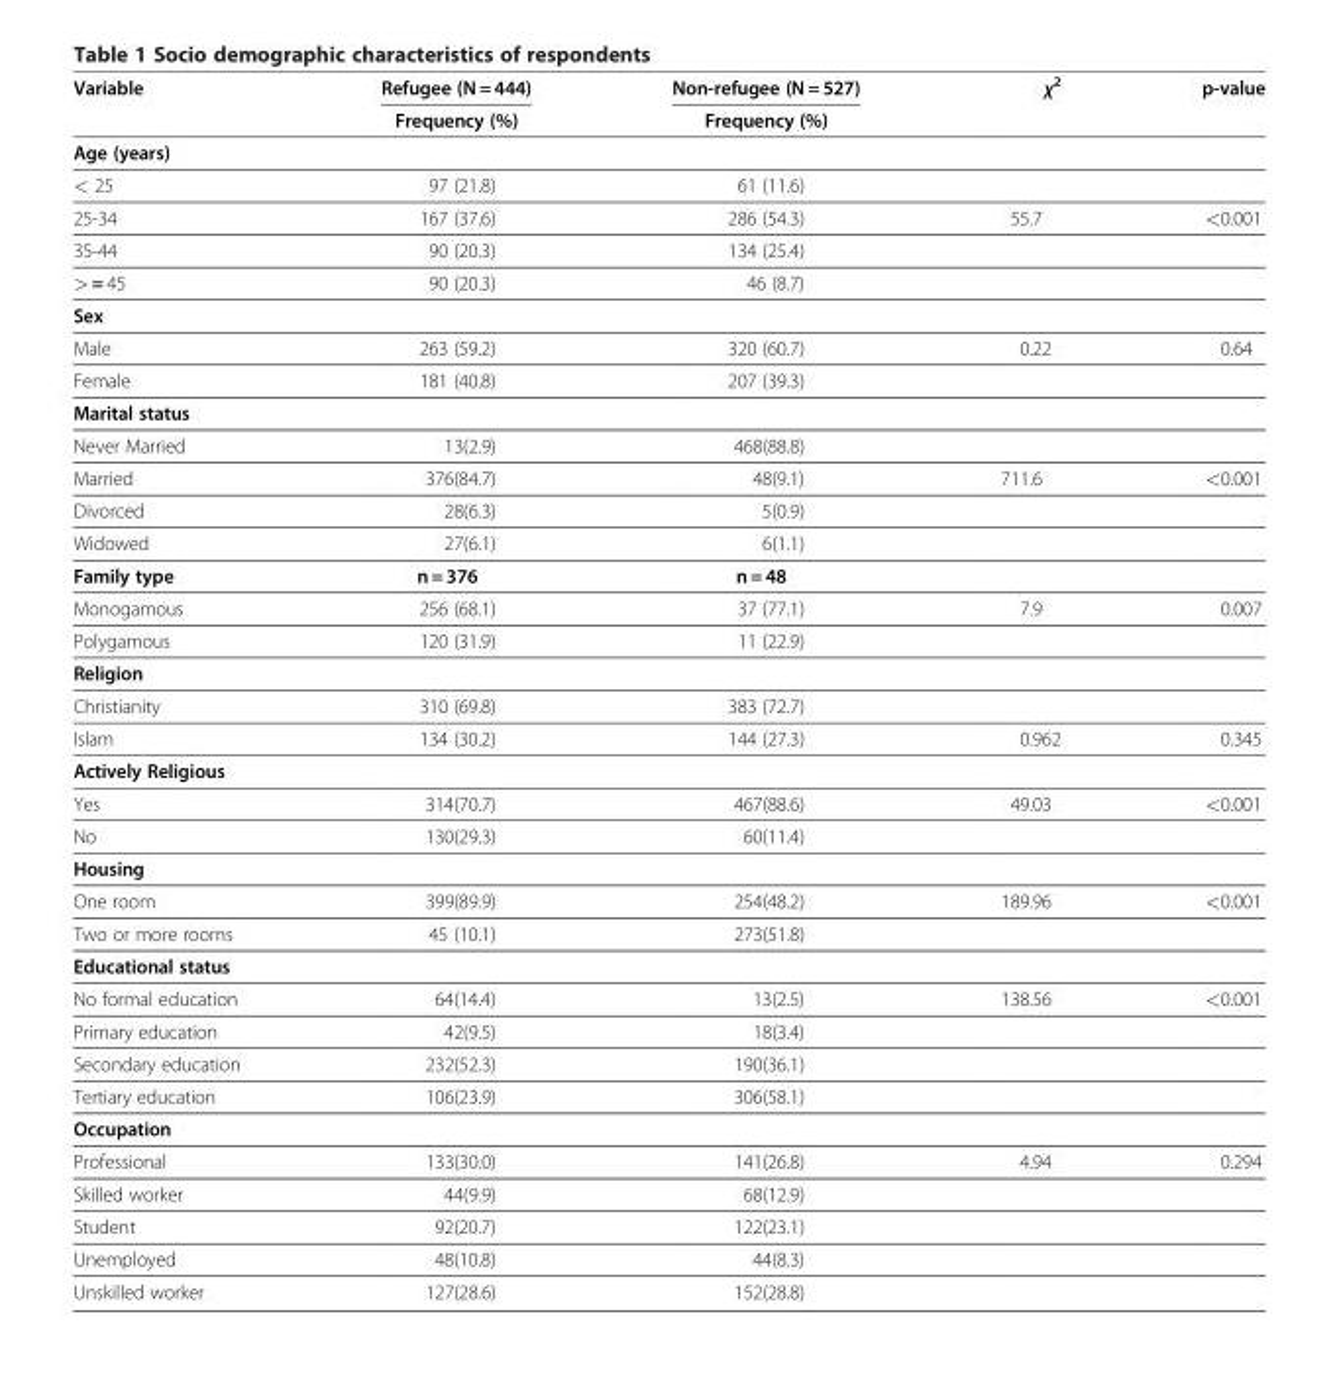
<table><thead><tr><td rowspan="2">Variable</td><td rowspan="2">Refugee (N = 444) Frequency (%)</td><td rowspan="2">Non-refugee (N = 527) Frequency (%)</td><td rowspan="2">χ<sup>2</sup></td><td rowspan="2">p-value</td></tr><tr></tr></thead><tbody><tr><td colspan="5">Age (years)</td></tr><tr><td>&lt; 25</td><td>97 (21.8)</td><td>61 (11.6)</td><td></td><td></td></tr><tr><td>25-34</td><td>167 (37.6)</td><td>286 (54.3)</td><td>55.7</td><td>&lt;0.001</td></tr><tr><td>35-44</td><td>90 (20.3)</td><td>134 (25.4)</td><td></td><td></td></tr><tr><td>&gt; = 45</td><td>90 (20.3)</td><td>46 (8.7)</td><td></td><td></td></tr><tr><td colspan="5">Sex</td></tr><tr><td>Male</td><td>263 (59.2)</td><td>320 (60.7)</td><td>0.22</td><td>0.64</td></tr><tr><td>Female</td><td>181 (40.8)</td><td>207 (39.3)</td><td></td><td></td></tr><tr><td colspan="5">Marital status</td></tr><tr><td>Never Married</td><td>13(2.9)</td><td>468(88.8)</td><td></td><td></td></tr><tr><td>Married</td><td>376(84.7)</td><td>48(9.1)</td><td>711.6</td><td>&lt;0.001</td></tr><tr><td>Divorced</td><td>28(6.3)</td><td>5(0.9)</td><td></td><td></td></tr><tr><td>Widowed</td><td>27(6.1)</td><td>6(1.1)</td><td></td><td></td></tr><tr><td>Family type</td><td>n = 376</td><td>n = 48</td><td></td><td></td></tr><tr><td>Monogamous</td><td>256 (68.1)</td><td>37 (77.1)</td><td>7.9</td><td>0.007</td></tr><tr><td>Polygamous</td><td>120 (31.9)</td><td>11 (22.9)</td><td></td><td></td></tr><tr><td colspan="5">Religion</td></tr><tr><td>Christianity</td><td>310 (69.8)</td><td>383 (72.7)</td><td></td><td></td></tr><tr><td>Islam</td><td>134 (30.2)</td><td>144 (27.3)</td><td>0.962</td><td>0.345</td></tr><tr><td colspan="5">Actively Religious</td></tr><tr><td>Yes</td><td>314(70.7)</td><td>467(88.6)</td><td>49.03</td><td>&lt;0.001</td></tr><tr><td>No</td><td>130(29.3)</td><td>60(11.4)</td><td></td><td></td></tr><tr><td colspan="5">Housing</td></tr><tr><td>One room</td><td>399(89.9)</td><td>254(48.2)</td><td>189.96</td><td>&lt;0.001</td></tr><tr><td>Two or more rooms</td><td>45 (10.1)</td><td>273(51.8)</td><td></td><td></td></tr><tr><td colspan="5">Educational status</td></tr><tr><td>No formal education</td><td>64(14.4)</td><td>13(2.5)</td><td>138.56</td><td>&lt;0.001</td></tr><tr><td>Primary education</td><td>42(9.5)</td><td>18(3.4)</td><td></td><td></td></tr><tr><td>Secondary education</td><td>232(52.3)</td><td>190(36.1)</td><td></td><td></td></tr><tr><td>Tertiary education</td><td>106(23.9)</td><td>306(58.1)</td><td></td><td></td></tr><tr><td colspan="5">Occupation</td></tr><tr><td>Professional</td><td>133(30.0)</td><td>141(26.8)</td><td>4.94</td><td>0.294</td></tr><tr><td>Skilled worker</td><td>44(9.9)</td><td>68(12.9)</td><td></td><td></td></tr><tr><td>Student</td><td>92(20.7)</td><td>122(23.1)</td><td></td><td></td></tr><tr><td>Unemployed</td><td>48(10.8)</td><td>44(8.3)</td><td></td><td></td></tr><tr><td>Unskilled worker</td><td>127(28.6)</td><td>152(28.8)</td><td></td><td></td></tr></tbody></table>